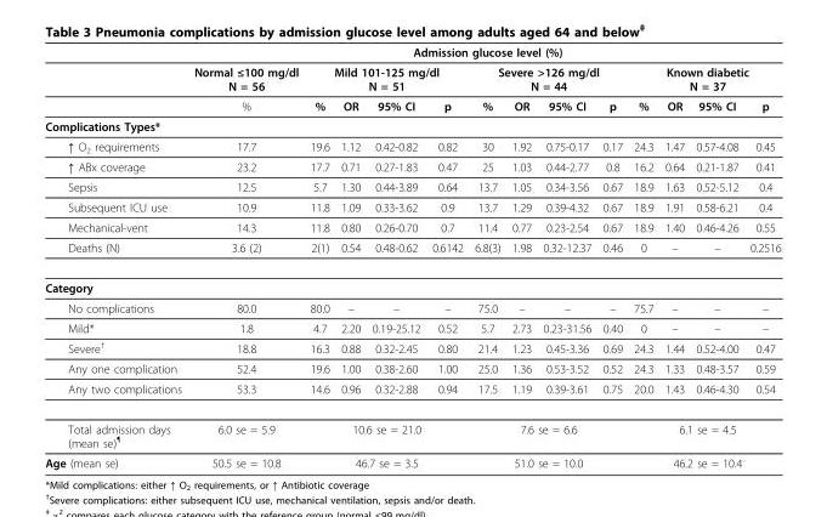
<table><thead><tr><td rowspan="3"></td><td colspan="13">Admission glucose level (%)</td></tr><tr><td rowspan="2">Normal ≤100 mg/dl N = 56 %</td><td colspan="4">Mild 101-125 mg/dl N = 51</td><td colspan="4">Severe &gt;126 mg/dl N = 44</td><td colspan="4">Known diabetic N = 37</td></tr><tr><td>%</td><td>OR</td><td>95% CI</td><td>p</td><td>%</td><td>OR</td><td>95% CI</td><td>p</td><td>%</td><td>OR</td><td>95% CI</td><td>p</td></tr></thead><tbody><tr><td colspan="14">Complications Types*</td></tr><tr><td>↑ O<sub>2</sub> requirements</td><td>17.7</td><td>19.6</td><td>1.12</td><td>0.42-0.82</td><td>0.82</td><td>30</td><td>1.92</td><td>0.75-0.17</td><td>0.17</td><td>24.3</td><td>1.47</td><td>0.57-4.08</td><td>0.45</td></tr><tr><td>↑ ABx coverage</td><td>23.2</td><td>17.7</td><td>0.71</td><td>0.27-1.83</td><td>0.47</td><td>25</td><td>1.03</td><td>0.44-2.77</td><td>0.8</td><td>16.2</td><td>0.64</td><td>0.21-1.87</td><td>0.41</td></tr><tr><td>Sepsis</td><td>12.5</td><td>5.7</td><td>1.30</td><td>0.44-3.89</td><td>0.64</td><td>13.7</td><td>1.05</td><td>0.34-3.56</td><td>0.67</td><td>18.9</td><td>1.63</td><td>0.52-5.12</td><td>0.4</td></tr><tr><td>Subsequent ICU use</td><td>10.9</td><td>11.8</td><td>1.09</td><td>0.33-3.62</td><td>0.9</td><td>13.7</td><td>1.29</td><td>0.39-4.32</td><td>0.67</td><td>18.9</td><td>1.91</td><td>0.58-6.21</td><td>0.4</td></tr><tr><td>Mechanical-vent</td><td>14.3</td><td>11.8</td><td>0.80</td><td>0.26-0.70</td><td>0.7</td><td>11.4</td><td>0.77</td><td>0.23-2.54</td><td>0.67</td><td>18.9</td><td>1.40</td><td>0.46-4.26</td><td>0.55</td></tr><tr><td>Deaths (N)</td><td>3.6 (2)</td><td>2(1)</td><td>0.54</td><td>0.48-0.62</td><td>0.6142</td><td>6.8(3)</td><td>1.98</td><td>0.32-12.37</td><td>0.46</td><td>0</td><td>–</td><td>–</td><td>0.2516</td></tr><tr><td colspan="14">Category</td></tr><tr><td>No complications</td><td>80.0</td><td>80.0</td><td>–</td><td>–</td><td>–</td><td>75.0</td><td>–</td><td>–</td><td>–</td><td>75.7</td><td>–</td><td>–</td><td>–</td></tr><tr><td>Mild*</td><td>1.8</td><td>4.7</td><td>2.20</td><td>0.19-25.12</td><td>0.52</td><td>5.7</td><td>2.73</td><td>0.23-31.56</td><td>0.40</td><td>0</td><td>–</td><td>–</td><td>–</td></tr><tr><td>Severe†</td><td>18.8</td><td>16.3</td><td>0.88</td><td>0.32-2.45</td><td>0.80</td><td>21.4</td><td>1.23</td><td>0.45-3.36</td><td>0.69</td><td>24.3</td><td>1.44</td><td>0.52-4.00</td><td>0.47</td></tr><tr><td>Any one complication</td><td>52.4</td><td>19.6</td><td>1.00</td><td>0.38-2.60</td><td>1.00</td><td>25.0</td><td>1.36</td><td>0.53-3.52</td><td>0.52</td><td>24.3</td><td>1.33</td><td>0.48-3.57</td><td>0.59</td></tr><tr><td>Any two complications</td><td>53.3</td><td>14.6</td><td>0.96</td><td>0.32-2.88</td><td>0.94</td><td>17.5</td><td>1.19</td><td>0.39-3.61</td><td>0.75</td><td>20.0</td><td>1.43</td><td>0.46-4.30</td><td>0.54</td></tr><tr><td>Total admission days (mean se)¶</td><td>6.0 se = 5.9</td><td colspan="4">10.6 se = 21.0</td><td colspan="4">7.6 se = 6.6</td><td colspan="4">6.1 se = 4.5</td></tr><tr><td>Age (mean se)</td><td>50.5 se = 10.8</td><td colspan="4">46.7 se = 3.5</td><td colspan="4">51.0 se = 10.0</td><td colspan="4">46.2 se = 10.4</td></tr></tbody></table>